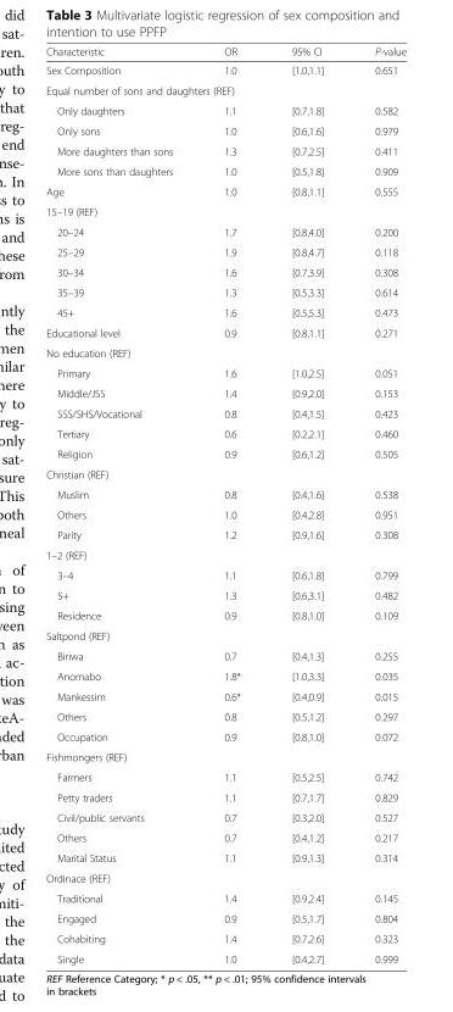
<table><thead><tr><td>Characteristic</td><td>OR</td><td>95% CI</td><td>P-value</td></tr></thead><tbody><tr><td>Sex Composition</td><td>1.0</td><td>[1.0,1.1]</td><td>0.651</td></tr><tr><td colspan="4">Equal number of sons and daughters (REF)</td></tr><tr><td>Only daughters</td><td>1.1</td><td>[0.7,1.8]</td><td>0.582</td></tr><tr><td>Only sons</td><td>1.0</td><td>[0.6,1.6]</td><td>0.979</td></tr><tr><td>More daughters than sons</td><td>1.3</td><td>[0.7,2.5]</td><td>0.411</td></tr><tr><td>More sons than daughters</td><td>1.0</td><td>[0.5,1.8]</td><td>0.909</td></tr><tr><td>Age</td><td>1.0</td><td>[0.8,1.1]</td><td>0.555</td></tr><tr><td colspan="4">15–19 (REF)</td></tr><tr><td>20–24</td><td>1.7</td><td>[0.8,4.0]</td><td>0.200</td></tr><tr><td>25–29</td><td>1.9</td><td>[0.8,4.7]</td><td>0.118</td></tr><tr><td>30–34</td><td>1.6</td><td>[0.7,3.9]</td><td>0.308</td></tr><tr><td>35–39</td><td>1.3</td><td>[0.5,3.3]</td><td>0.614</td></tr><tr><td>45+</td><td>1.6</td><td>[0.5,5.3]</td><td>0.473</td></tr><tr><td>Educational level</td><td>0.9</td><td>[0.8,1.1]</td><td>0.271</td></tr><tr><td colspan="4">No education (REF)</td></tr><tr><td>Primary</td><td>1.6</td><td>[1.0,2.5]</td><td>0.051</td></tr><tr><td>Middle/JSS</td><td>1.4</td><td>[0.9,2.0]</td><td>0.153</td></tr><tr><td>SSS/SHS/Vocational</td><td>0.8</td><td>[0.4,1.5]</td><td>0.423</td></tr><tr><td>Tertiary</td><td>0.6</td><td>[0.2,2.1]</td><td>0.460</td></tr><tr><td>Religion</td><td>0.9</td><td>[0.6,1.2]</td><td>0.505</td></tr><tr><td colspan="4">Christian (REF)</td></tr><tr><td>Muslim</td><td>0.8</td><td>[0.4,1.6]</td><td>0.538</td></tr><tr><td>Others</td><td>1.0</td><td>[0.4,2.8]</td><td>0.951</td></tr><tr><td>Parity</td><td>1.2</td><td>[0.9,1.6]</td><td>0.308</td></tr><tr><td colspan="4">1–2 (REF)</td></tr><tr><td>3–4</td><td>1.1</td><td>[0.6,1.8]</td><td>0.799</td></tr><tr><td>5+</td><td>1.3</td><td>[0.6,3.1]</td><td>0.482</td></tr><tr><td>Residence</td><td>0.9</td><td>[0.8,1.0]</td><td>0.109</td></tr><tr><td colspan="4">Saltpond (REF)</td></tr><tr><td>Biriwa</td><td>0.7</td><td>[0.4,1.3]</td><td>0.255</td></tr><tr><td>Anomabo</td><td>1.8*</td><td>[1.0,3.3]</td><td>0.035</td></tr><tr><td>Mankessim</td><td>0.6*</td><td>[0.4,0.9]</td><td>0.015</td></tr><tr><td>Others</td><td>0.8</td><td>[0.5,1.2]</td><td>0.297</td></tr><tr><td>Occupation</td><td>0.9</td><td>[0.8,1.0]</td><td>0.072</td></tr><tr><td colspan="4">Fishmongers (REF)</td></tr><tr><td>Farmers</td><td>1.1</td><td>[0.5,2.5]</td><td>0.742</td></tr><tr><td>Petty traders</td><td>1.1</td><td>[0.7,1.7]</td><td>0.829</td></tr><tr><td>Civil/public servants</td><td>0.7</td><td>[0.3,2.0]</td><td>0.527</td></tr><tr><td>Others</td><td>0.7</td><td>[0.4,1.2]</td><td>0.217</td></tr><tr><td>Marital Status</td><td>1.1</td><td>[0.9,1.3]</td><td>0.314</td></tr><tr><td colspan="4">Ordinace (REF)</td></tr><tr><td>Traditional</td><td>1.4</td><td>[0.9,2.4]</td><td>0.145</td></tr><tr><td>Engaged</td><td>0.9</td><td>[0.5,1.7]</td><td>0.804</td></tr><tr><td>Cohabiting</td><td>1.4</td><td>[0.7,2.6]</td><td>0.323</td></tr><tr><td>Single</td><td>1.0</td><td>[0.4,2.7]</td><td>0.999</td></tr></tbody></table>